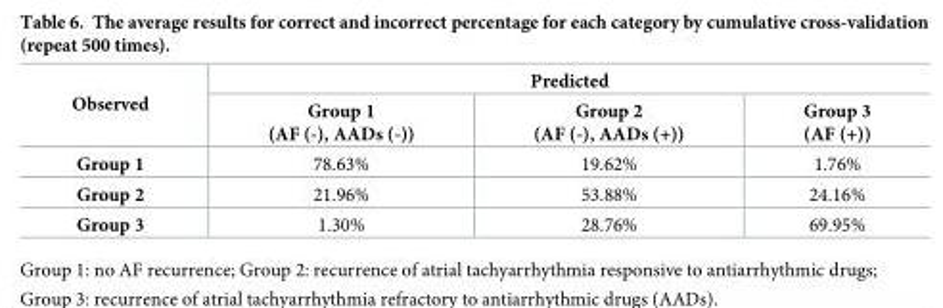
<table><thead><tr><td rowspan="2">Observed</td><td colspan="3">Predicted</td></tr><tr><td>Group 1 (AF (-), AADs (-))</td><td>Group 2 (AF (-), AADs (+))</td><td>Group 3 (AF (+))</td></tr></thead><tbody><tr><td>Group 1</td><td>78.63%</td><td>19.62%</td><td>1.76%</td></tr><tr><td>Group 2</td><td>21.96%</td><td>53.88%</td><td>24.16%</td></tr><tr><td>Group 3</td><td>1.30%</td><td>28.76%</td><td>69.95%</td></tr></tbody></table>